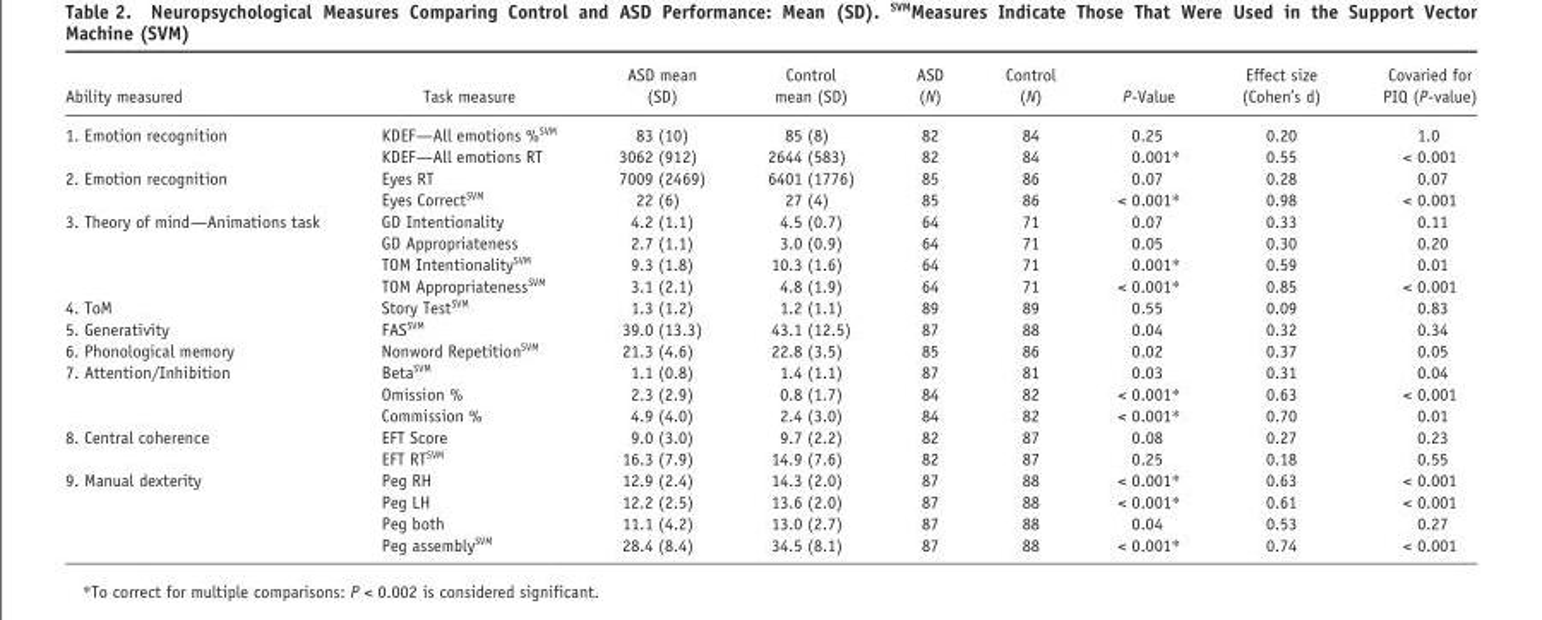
<table><thead><tr><td>Ability measured</td><td>Task measure</td><td>ASD mean (SD)</td><td>Control mean (SD)</td><td>ASD (N)</td><td>Control (N)</td><td>P-Value</td><td>Effect size (Cohen’s d)</td><td>Covaried for PIQ (P-value)</td></tr></thead><tbody><tr><td rowspan="2">1. Emotion recognition</td><td>KDEF—All emotions %<sup>SVM</sup></td><td>83 (10)</td><td>85 (8)</td><td>82</td><td>84</td><td>0.25</td><td>0.20</td><td>1.0</td></tr><tr><td>KDEF—All emotions RT</td><td>3062 (912)</td><td>2644 (583)</td><td>82</td><td>84</td><td>0.001*</td><td>0.55</td><td>&lt; 0.001</td></tr><tr><td rowspan="2">2. Emotion recognition</td><td>Eyes RT</td><td>7009 (2469)</td><td>6401 (1776)</td><td>85</td><td>86</td><td>0.07</td><td>0.28</td><td>0.07</td></tr><tr><td>Eyes Correct<sup>SVM</sup></td><td>22 (6)</td><td>27 (4)</td><td>85</td><td>86</td><td>&lt; 0.001*</td><td>0.98</td><td>&lt; 0.001</td></tr><tr><td rowspan="4">3. Theory of mind—Animations task</td><td>GD Intentionality</td><td>4.2 (1.1)</td><td>4.5 (0.7)</td><td>64</td><td>71</td><td>0.07</td><td>0.33</td><td>0.11</td></tr><tr><td>GD Appropriateness</td><td>2.7 (1.1)</td><td>3.0 (0.9)</td><td>64</td><td>71</td><td>0.05</td><td>0.30</td><td>0.20</td></tr><tr><td>TOM Intentionality<sup>SVM</sup></td><td>9.3 (1.8)</td><td>10.3 (1.6)</td><td>64</td><td>71</td><td>0.001*</td><td>0.59</td><td>0.01</td></tr><tr><td>TOM Appropriateness<sup>SVM</sup></td><td>3.1 (2.1)</td><td>4.8 (1.9)</td><td>64</td><td>71</td><td>&lt; 0.001*</td><td>0.85</td><td>&lt; 0.001</td></tr><tr><td>4. ToM</td><td>Story Test<sup>SVM</sup></td><td>1.3 (1.2)</td><td>1.2 (1.1)</td><td>89</td><td>89</td><td>0.55</td><td>0.09</td><td>0.83</td></tr><tr><td>5. Generativity</td><td>FAS<sup>SVM</sup></td><td>39.0 (13.3)</td><td>43.1 (12.5)</td><td>87</td><td>88</td><td>0.04</td><td>0.32</td><td>0.34</td></tr><tr><td>6. Phonological memory</td><td>Nonword Repetition<sup>SVM</sup></td><td>21.3 (4.6)</td><td>22.8 (3.5)</td><td>85</td><td>86</td><td>0.02</td><td>0.37</td><td>0.05</td></tr><tr><td rowspan="3">7. Attention/Inhibition</td><td>Beta<sup>SVM</sup></td><td>1.1 (0.8)</td><td>1.4 (1.1)</td><td>87</td><td>81</td><td>0.03</td><td>0.31</td><td>0.04</td></tr><tr><td>Omission %</td><td>2.3 (2.9)</td><td>0.8 (1.7)</td><td>84</td><td>82</td><td>&lt; 0.001*</td><td>0.63</td><td>&lt; 0.001</td></tr><tr><td>Commission %</td><td>4.9 (4.0)</td><td>2.4 (3.0)</td><td>84</td><td>82</td><td>&lt; 0.001*</td><td>0.70</td><td>0.01</td></tr><tr><td rowspan="2">8. Central coherence</td><td>EFT Score</td><td>9.0 (3.0)</td><td>9.7 (2.2)</td><td>82</td><td>87</td><td>0.08</td><td>0.27</td><td>0.23</td></tr><tr><td>EFT RT<sup>SVM</sup></td><td>16.3 (7.9)</td><td>14.9 (7.6)</td><td>82</td><td>87</td><td>0.25</td><td>0.18</td><td>0.55</td></tr><tr><td rowspan="4">9. Manual dexterity</td><td>Peg RH</td><td>12.9 (2.4)</td><td>14.3 (2.0)</td><td>87</td><td>88</td><td>&lt; 0.001*</td><td>0.63</td><td>&lt; 0.001</td></tr><tr><td>Peg LH</td><td>12.2 (2.5)</td><td>13.6 (2.0)</td><td>87</td><td>88</td><td>&lt; 0.001*</td><td>0.61</td><td>&lt; 0.001</td></tr><tr><td>Peg both</td><td>11.1 (4.2)</td><td>13.0 (2.7)</td><td>87</td><td>88</td><td>0.04</td><td>0.53</td><td>0.27</td></tr><tr><td>Peg assembly<sup>SVM</sup></td><td>28.4 (8.4)</td><td>34.5 (8.1)</td><td>87</td><td>88</td><td>&lt; 0.001*</td><td>0.74</td><td>&lt; 0.001</td></tr></tbody></table>